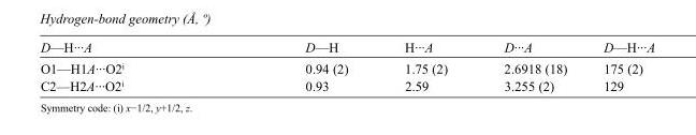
<table><tbody><tr><td>D—H···A</td><td>D—H</td><td>H···A</td><td>D···A</td><td>D—H···A</td></tr><tr><td>O1—H1A···O2<sup>i</sup></td><td>0.94 (2)</td><td>1.75 (2)</td><td>2.6918 (18)</td><td>175 (2)</td></tr><tr><td>C2—H2A···O2<sup>i</sup></td><td>0.93</td><td>2.59</td><td>3.255 (2)</td><td>129</td></tr></tbody></table>